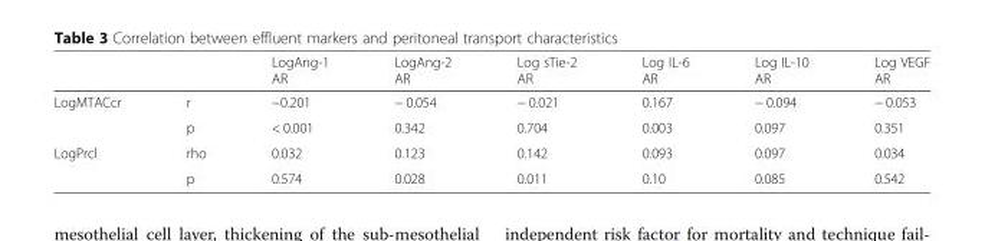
<table><thead><tr><td></td><td></td><td>LogAng-1 AR</td><td>LogAng-2 AR</td><td>Log sTie-2 AR</td><td>Log IL-6 AR</td><td>Log IL-10 AR</td><td>Log VEGF AR</td></tr></thead><tbody><tr><td rowspan="2">LogMTACcr</td><td>r</td><td>−0.201</td><td>− 0.054</td><td>− 0.021</td><td>0.167</td><td>− 0.094</td><td>− 0.053</td></tr><tr><td>p</td><td>&lt; 0.001</td><td>0.342</td><td>0.704</td><td>0.003</td><td>0.097</td><td>0.351</td></tr><tr><td rowspan="2">LogPrcl</td><td>rho</td><td>0.032</td><td>0.123</td><td>0.142</td><td>0.093</td><td>0.097</td><td>0.034</td></tr><tr><td>p</td><td>0.574</td><td>0.028</td><td>0.011</td><td>0.10</td><td>0.085</td><td>0.542</td></tr></tbody></table>